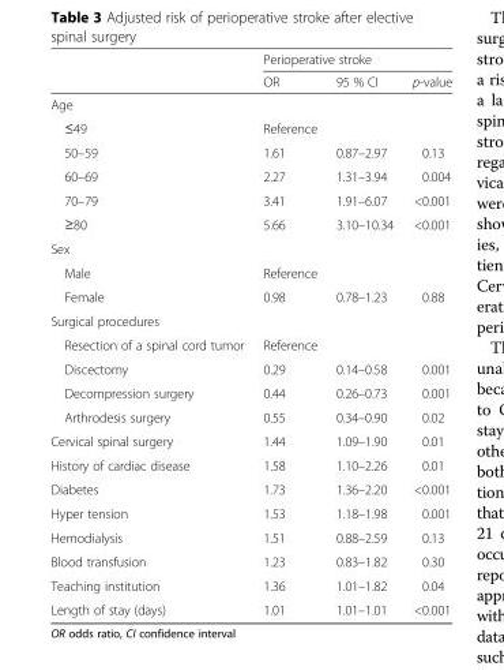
<table><thead><tr><td rowspan="2"></td><td colspan="3">Perioperative stroke</td></tr><tr><td>OR</td><td>95 % CI</td><td>p-value</td></tr></thead><tbody><tr><td colspan="4">Age</td></tr><tr><td>≤49</td><td>Reference</td><td></td><td></td></tr><tr><td>50–59</td><td>1.61</td><td>0.87–2.97</td><td>0.13</td></tr><tr><td>60–69</td><td>2.27</td><td>1.31–3.94</td><td>0.004</td></tr><tr><td>70–79</td><td>3.41</td><td>1.91–6.07</td><td>&lt;0.001</td></tr><tr><td>≥80</td><td>5.66</td><td>3.10–10.34</td><td>&lt;0.001</td></tr><tr><td colspan="4">Sex</td></tr><tr><td>Male</td><td>Reference</td><td></td><td></td></tr><tr><td>Female</td><td>0.98</td><td>0.78–1.23</td><td>0.88</td></tr><tr><td colspan="4">Surgical procedures</td></tr><tr><td>Resection of a spinal cord tumor</td><td>Reference</td><td></td><td></td></tr><tr><td>Discectomy</td><td>0.29</td><td>0.14–0.58</td><td>0.001</td></tr><tr><td>Decompression surgery</td><td>0.44</td><td>0.26–0.73</td><td>0.001</td></tr><tr><td>Arthrodesis surgery</td><td>0.55</td><td>0.34–0.90</td><td>0.02</td></tr><tr><td>Cervical spinal surgery</td><td>1.44</td><td>1.09–1.90</td><td>0.01</td></tr><tr><td>History of cardiac disease</td><td>1.58</td><td>1.10–2.26</td><td>0.01</td></tr><tr><td>Diabetes</td><td>1.73</td><td>1.36–2.20</td><td>&lt;0.001</td></tr><tr><td>Hyper tension</td><td>1.53</td><td>1.18–1.98</td><td>0.001</td></tr><tr><td>Hemodialysis</td><td>1.51</td><td>0.88–2.59</td><td>0.13</td></tr><tr><td>Blood transfusion</td><td>1.23</td><td>0.83–1.82</td><td>0.30</td></tr><tr><td>Teaching institution</td><td>1.36</td><td>1.01–1.82</td><td>0.04</td></tr><tr><td>Length of stay (days)</td><td>1.01</td><td>1.01–1.01</td><td>&lt;0.001</td></tr></tbody></table>